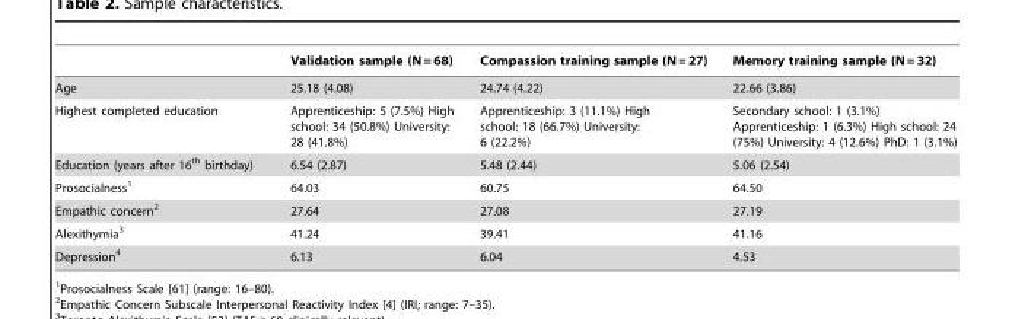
<table><thead><tr><td></td><td>Validation sample (N = 68)</td><td>Compassion training sample (N = 27)</td><td>Memory training sample (N = 32)</td></tr></thead><tbody><tr><td>Age</td><td>25.18 (4.08)</td><td>24.74 (4.22)</td><td>22.66 (3.86)</td></tr><tr><td>Highest completed education</td><td>Apprenticeship: 5 (7.5%) High school: 34 (50.8%) University: 28 (41.8%)</td><td>Apprenticeship: 3 (11.1%) High school: 18 (66.7%) University: 6 (22.2%)</td><td>Secondary school: 1 (3.1%) Apprenticeship: 1 (6.3%) High school: 24 (75%) University: 4 (12.6%) PhD: 1 (3.1%)</td></tr><tr><td>Education (years after 16<sup>th</sup> birthday)</td><td>6.54 (2.87)</td><td>5.48 (2.44)</td><td>5.06 (2.54)</td></tr><tr><td>Prosocialness<sup>1</sup></td><td>64.03</td><td>60.75</td><td>64.50</td></tr><tr><td>Empathic concern<sup>2</sup></td><td>27.64</td><td>27.08</td><td>27.19</td></tr><tr><td>Alexithymia<sup>3</sup></td><td>41.24</td><td>39.41</td><td>41.16</td></tr><tr><td>Depression<sup>4</sup></td><td>6.13</td><td>6.04</td><td>4.53</td></tr></tbody></table>